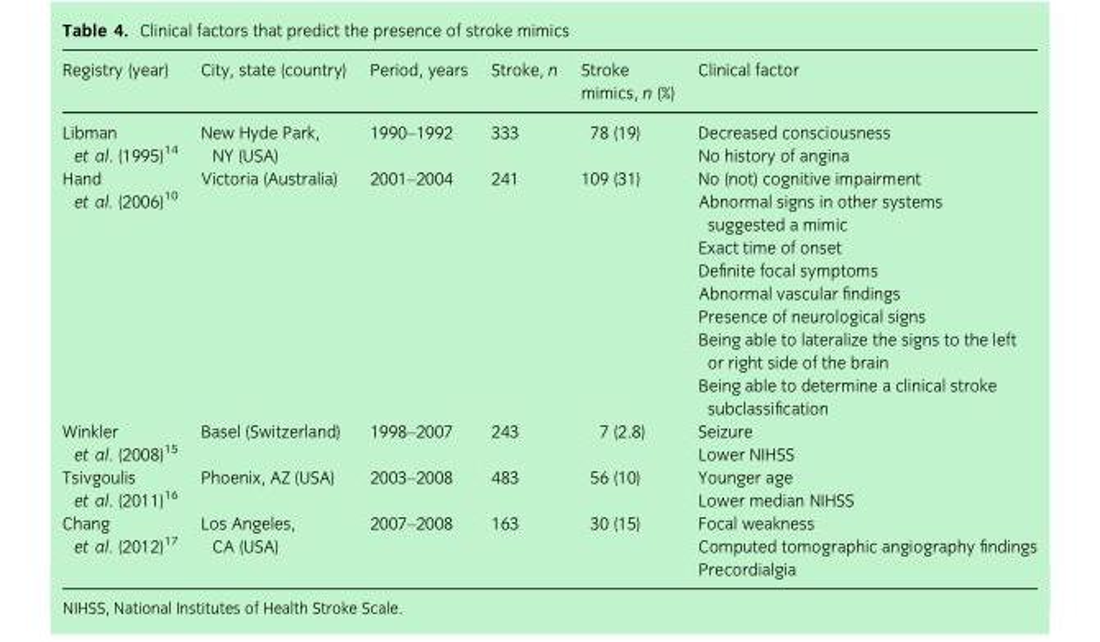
<table><thead><tr><td>Registry (year)</td><td>City, state (country)</td><td>Period, years</td><td>Stroke, n</td><td>Stroke mimics, n (%)</td><td>Clinical factor</td></tr></thead><tbody><tr><td>Libman et al. (1995)<sup>14</sup></td><td>New Hyde Park, NY (USA)</td><td>1990–1992</td><td>333</td><td>78 (19)</td><td>Decreased consciousness No history of angina</td></tr><tr><td>Hand et al. (2006)<sup>10</sup></td><td>Victoria (Australia)</td><td>2001–2004</td><td>241</td><td>109 (31)</td><td>No (not) cognitive impairment Abnormal signs in other systems suggested a mimic Exact time of onset Definite focal symptoms Abnormal vascular findings Presence of neurological signs Being able to lateralize the signs to the left or right side of the brain Being able to determine a clinical stroke subclassification</td></tr><tr><td>Winkler et al. (2008)<sup>15</sup></td><td>Basel (Switzerland)</td><td>1998–2007</td><td>243</td><td>7 (2.8)</td><td>Seizure Lower NIHSS</td></tr><tr><td>Tsivgoulis et al. (2011)<sup>16</sup></td><td>Phoenix, AZ (USA)</td><td>2003–2008</td><td>483</td><td>56 (10)</td><td>Younger age Lower median NIHSS</td></tr><tr><td>Chang et al. (2012)<sup>17</sup></td><td>Los Angeles, CA (USA)</td><td>2007–2008</td><td>163</td><td>30 (15)</td><td>Focal weakness Computed tomographic angiography findings Precordialgia</td></tr></tbody></table>